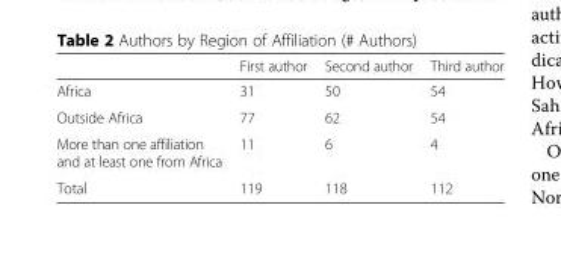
<table><thead><tr><td></td><td>First author</td><td>Second author</td><td>Third author</td></tr></thead><tbody><tr><td>Africa</td><td>31</td><td>50</td><td>54</td></tr><tr><td>Outside Africa</td><td>77</td><td>62</td><td>54</td></tr><tr><td>More than one affiliation and at least one from Africa</td><td>11</td><td>6</td><td>4</td></tr><tr><td>Total</td><td>119</td><td>118</td><td>112</td></tr></tbody></table>